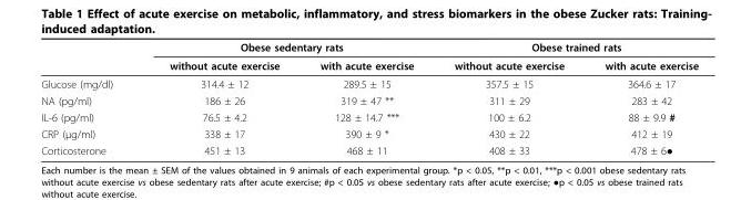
<table><thead><tr><td rowspan="2"></td><td colspan="2">Obese sedentary rats</td><td colspan="2">Obese trained rats</td></tr><tr><td>without acute exercise</td><td>with acute exercise</td><td>without acute exercise</td><td>with acute exercise</td></tr></thead><tbody><tr><td>Glucose (mg/dl)</td><td>314.4 ± 12</td><td>289.5 ± 15</td><td>357.5 ± 15</td><td>364.6 ± 17</td></tr><tr><td>NA (pg/ml)</td><td>186 ± 26</td><td>319 ± 47 **</td><td>311 ± 29</td><td>283 ± 42</td></tr><tr><td>IL-6 (pg/ml)</td><td>76.5 ± 4.2</td><td>128 ± 14.7 ***</td><td>100 ± 6.2</td><td>88 ± 9.9 #</td></tr><tr><td>CRP (μg/ml)</td><td>338 ± 17</td><td>390 ± 9 *</td><td>430 ± 22</td><td>412 ± 19</td></tr><tr><td>Corticosterone</td><td>451 ± 13</td><td>468 ± 11</td><td>408 ± 33</td><td>478 ± 6●</td></tr></tbody></table>